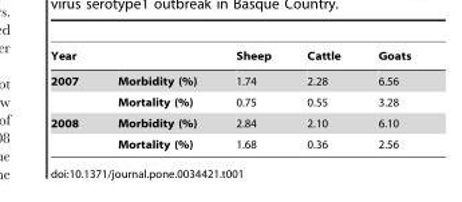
<table><thead><tr><td>Year</td><td></td><td>Sheep</td><td>Cattle</td><td>Goats</td></tr></thead><tbody><tr><td rowspan="2">2007</td><td>Morbidity (%)</td><td>1.74</td><td>2.28</td><td>6.56</td></tr><tr><td>Mortality (%)</td><td>0.75</td><td>0.55</td><td>3.28</td></tr><tr><td rowspan="2">2008</td><td>Morbidity (%)</td><td>2.84</td><td>2.10</td><td>6.10</td></tr><tr><td>Mortality (%)</td><td>1.68</td><td>0.36</td><td>2.56</td></tr></tbody></table>